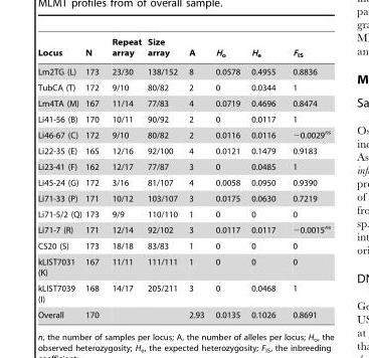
<table><thead><tr><td>Locus</td><td>N</td><td>Repeat array</td><td>Size array</td><td>A</td><td>H<sub>o</sub></td><td>H<sub>e</sub></td><td>F<sub>IS</sub></td></tr></thead><tbody><tr><td>Lm2TG (L)</td><td>173</td><td>23/30</td><td>138/152</td><td>8</td><td>0.0578</td><td>0.4955</td><td>0.8836</td></tr><tr><td>TubCA (T)</td><td>172</td><td>9/10</td><td>80/82</td><td>2</td><td>0</td><td>0.0344</td><td>1</td></tr><tr><td>Lm4TA (M)</td><td>167</td><td>11/14</td><td>77/83</td><td>4</td><td>0.0719</td><td>0.4696</td><td>0.8474</td></tr><tr><td>Li41-56 (B)</td><td>170</td><td>10/11</td><td>90/92</td><td>2</td><td>0</td><td>0.0117</td><td>1</td></tr><tr><td>Li46-67 (C)</td><td>172</td><td>9/10</td><td>80/82</td><td>2</td><td>0.0116</td><td>0.0116</td><td>−0.0029<sup>ns</sup></td></tr><tr><td>Li22-35 (E)</td><td>165</td><td>12/16</td><td>92/100</td><td>4</td><td>0.0121</td><td>0.1479</td><td>0.9183</td></tr><tr><td>Li23-41 (F)</td><td>162</td><td>12/17</td><td>77/87</td><td>3</td><td>0</td><td>0.0485</td><td>1</td></tr><tr><td>Li45-24 (G)</td><td>172</td><td>3/16</td><td>81/107</td><td>4</td><td>0.0058</td><td>0.0950</td><td>0.9390</td></tr><tr><td>Li71-33 (P)</td><td>171</td><td>10/12</td><td>103/107</td><td>3</td><td>0.0175</td><td>0.0630</td><td>0.7219</td></tr><tr><td>Li71-5/2 (Q)</td><td>173</td><td>9/9</td><td>110/110</td><td>1</td><td>0</td><td>0</td><td>0</td></tr><tr><td>Li71-7 (R)</td><td>171</td><td>12/14</td><td>92/102</td><td>3</td><td>0.0117</td><td>0.0117</td><td>−0.0015<sup>ns</sup></td></tr><tr><td>CS20 (S)</td><td>173</td><td>18/18</td><td>83/83</td><td>1</td><td>0</td><td>0</td><td>0</td></tr><tr><td>kLIST7031 (K)</td><td>167</td><td>11/11</td><td>111/111</td><td>1</td><td>0</td><td>0</td><td>0</td></tr><tr><td>kLIST7039 (I)</td><td>168</td><td>14/17</td><td>205/211</td><td>3</td><td>0</td><td>0.0468</td><td>1</td></tr><tr><td>Overall</td><td>170</td><td></td><td></td><td>2.93</td><td>0.0135</td><td>0.1026</td><td>0.8691</td></tr></tbody></table>